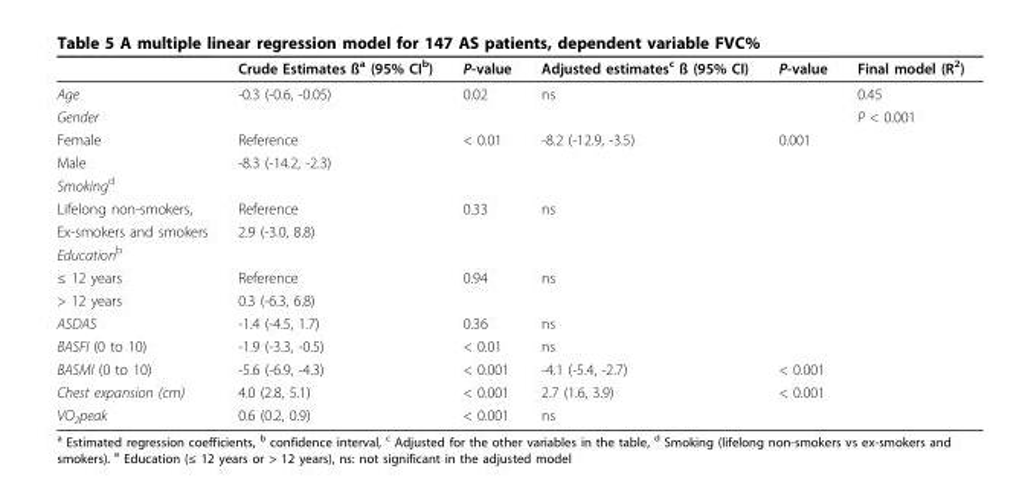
<table><thead><tr><td></td><td>Crude Estimates ß<sup>a</sup> (95% CI<sup>b</sup>)</td><td>P-value</td><td>Adjusted estimates<sup>c</sup> ß (95% CI)</td><td>P-value</td><td>Final model (R<sup>2</sup>)</td></tr></thead><tbody><tr><td>Age</td><td>-0.3 (-0.6, -0.05)</td><td>0.02</td><td>ns</td><td></td><td>0.45</td></tr><tr><td>Gender</td><td></td><td></td><td></td><td></td><td>P &lt; 0.001</td></tr><tr><td>Female</td><td>Reference</td><td>&lt; 0.01</td><td>-8.2 (-12.9, -3.5)</td><td>0.001</td><td></td></tr><tr><td>Male</td><td>-8.3 (-14.2, -2.3)</td><td></td><td></td><td></td><td></td></tr><tr><td colspan="6">Smoking<sup>d</sup></td></tr><tr><td>Lifelong non-smokers,</td><td>Reference</td><td>0.33</td><td>ns</td><td></td><td></td></tr><tr><td>Ex-smokers and smokers</td><td>2.9 (-3.0, 8.8)</td><td></td><td></td><td></td><td></td></tr><tr><td colspan="6">Education<sup>b</sup></td></tr><tr><td>≤ 12 years</td><td>Reference</td><td>0.94</td><td>ns</td><td></td><td></td></tr><tr><td>&gt; 12 years</td><td>0.3 (-6.3, 6.8)</td><td></td><td></td><td></td><td></td></tr><tr><td>ASDAS</td><td>-1.4 (-4.5, 1.7)</td><td>0.36</td><td>ns</td><td></td><td></td></tr><tr><td>BASFI (0 to 10)</td><td>-1.9 (-3.3, -0.5)</td><td>&lt; 0.01</td><td>ns</td><td></td><td></td></tr><tr><td>BASMI (0 to 10)</td><td>-5.6 (-6.9, -4.3)</td><td>&lt; 0.001</td><td>-4.1 (-5.4, -2.7)</td><td>&lt; 0.001</td><td></td></tr><tr><td>Chest expansion (cm)</td><td>4.0 (2.8, 5.1)</td><td>&lt; 0.001</td><td>2.7 (1.6, 3.9)</td><td>&lt; 0.001</td><td></td></tr><tr><td>VO<sub>2</sub>peak</td><td>0.6 (0.2, 0.9)</td><td>&lt; 0.001</td><td>ns</td><td></td><td></td></tr></tbody></table>